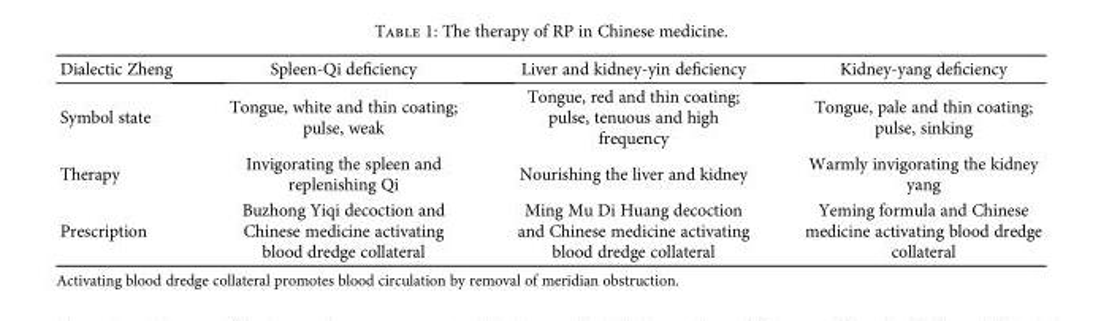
<table><thead><tr><td>Dialectic Zheng</td><td>Spleen-Qi deficiency</td><td>Liver and kidney-yin deficiency</td><td>Kidney-yang deficiency</td></tr></thead><tbody><tr><td>Symbol state</td><td>Tongue, white and thin coating; pulse, weak</td><td>Tongue, red and thin coating; pulse, tenuous and high frequency</td><td>Tongue, pale and thin coating; pulse, sinking</td></tr><tr><td>Therapy</td><td>Invigorating the spleen and replenishing Qi</td><td>Nourishing the liver and kidney</td><td>Warmly invigorating the kidney yang</td></tr><tr><td>Prescription</td><td>Buzhong Yiqi decoction and Chinese medicine activating blood dredge collateral</td><td>Ming Mu Di Huang decoction and Chinese medicine activating blood dredge collateral</td><td>Yeming formula and Chinese medicine activating blood dredge collateral</td></tr></tbody></table>